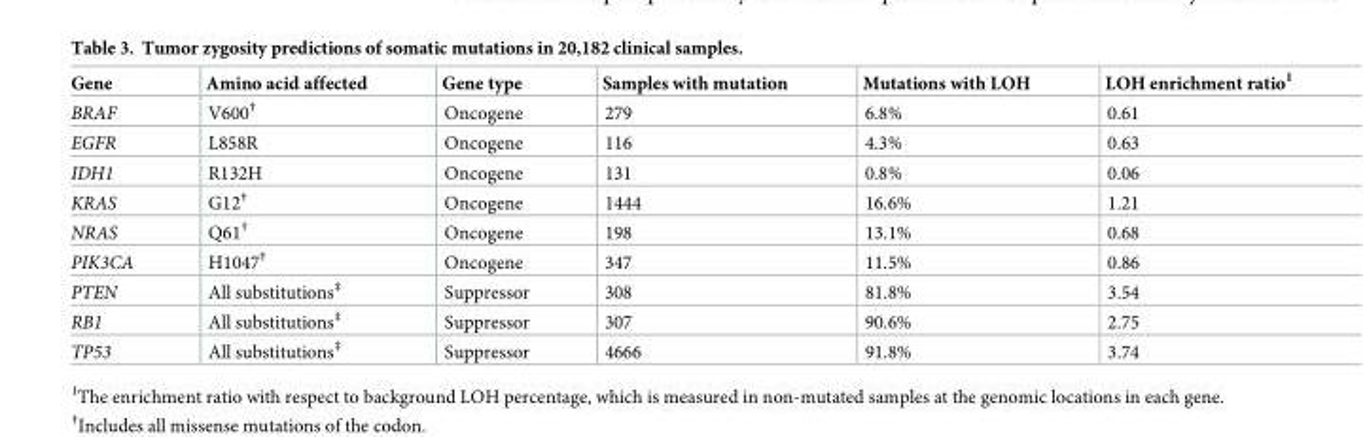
<table><thead><tr><td>Gene</td><td>Amino acid affected</td><td>Gene type</td><td>Samples with mutation</td><td>Mutations with LOH</td><td>LOH enrichment ratio<sup>1</sup></td></tr></thead><tbody><tr><td>BRAF</td><td>V600<sup>†</sup></td><td>Oncogene</td><td>279</td><td>6.8%</td><td>0.61</td></tr><tr><td>EGFR</td><td>L858R</td><td>Oncogene</td><td>116</td><td>4.3%</td><td>0.63</td></tr><tr><td>IDH1</td><td>R132H</td><td>Oncogene</td><td>131</td><td>0.8%</td><td>0.06</td></tr><tr><td>KRAS</td><td>G12<sup>†</sup></td><td>Oncogene</td><td>1444</td><td>16.6%</td><td>1.21</td></tr><tr><td>NRAS</td><td>Q61<sup>†</sup></td><td>Oncogene</td><td>198</td><td>13.1%</td><td>0.68</td></tr><tr><td>PIK3CA</td><td>H1047<sup>†</sup></td><td>Oncogene</td><td>347</td><td>11.5%</td><td>0.86</td></tr><tr><td>PTEN</td><td>All substitutions<sup>‡</sup></td><td>Suppressor</td><td>308</td><td>81.8%</td><td>3.54</td></tr><tr><td>RB1</td><td>All substitutions<sup>‡</sup></td><td>Suppressor</td><td>307</td><td>90.6%</td><td>2.75</td></tr><tr><td>TP53</td><td>All substitutions<sup>‡</sup></td><td>Suppressor</td><td>4666</td><td>91.8%</td><td>3.74</td></tr></tbody></table>